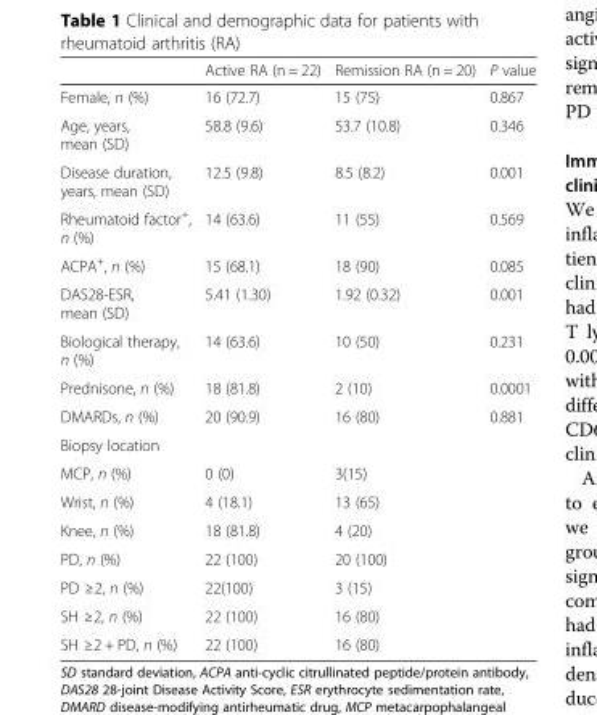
<table><thead><tr><td></td><td>Active RA (n = 22)</td><td>Remission RA (n = 20)</td><td>P value</td></tr></thead><tbody><tr><td>Female, n (%)</td><td>16 (72.7)</td><td>15 (75)</td><td>0.867</td></tr><tr><td>Age, years, mean (SD)</td><td>58.8 (9.6)</td><td>53.7 (10.8)</td><td>0.346</td></tr><tr><td>Disease duration, years, mean (SD)</td><td>12.5 (9.8)</td><td>8.5 (8.2)</td><td>0.001</td></tr><tr><td>Rheumatoid factor<sup>+</sup>, n (%)</td><td>14 (63.6)</td><td>11 (55)</td><td>0.569</td></tr><tr><td>ACPA<sup>+</sup>, n (%)</td><td>15 (68.1)</td><td>18 (90)</td><td>0.085</td></tr><tr><td>DAS28-ESR, mean (SD)</td><td>5.41 (1.30)</td><td>1.92 (0.32)</td><td>0.001</td></tr><tr><td>Biological therapy, n (%)</td><td>14 (63.6)</td><td>10 (50)</td><td>0.231</td></tr><tr><td>Prednisone, n (%)</td><td>18 (81.8)</td><td>2 (10)</td><td>0.0001</td></tr><tr><td>DMARDs, n (%)</td><td>20 (90.9)</td><td>16 (80)</td><td>0.881</td></tr><tr><td colspan="3">Biopsy location</td><td rowspan="4"></td></tr><tr><td>MCP, n (%)</td><td>0 (0)</td><td>3(15)</td></tr><tr><td>Wrist, n (%)</td><td>4 (18.1)</td><td>13 (65)</td></tr><tr><td>Knee, n (%)</td><td>18 (81.8)</td><td>4 (20)</td></tr><tr><td>PD, n (%)</td><td>22 (100)</td><td>20 (100)</td><td rowspan="2"></td></tr><tr><td>PD ≥2, n (%)</td><td>22(100)</td><td>3 (15)</td></tr><tr><td>SH ≥2, n (%)</td><td>22 (100)</td><td>16 (80)</td><td></td></tr><tr><td>SH ≥2 + PD, n (%)</td><td>22 (100)</td><td>16 (80)</td><td></td></tr></tbody></table>